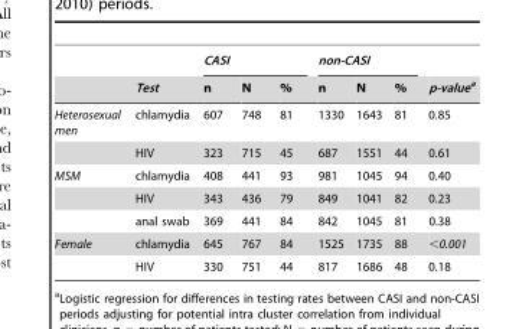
<table><thead><tr><td rowspan="2"></td><td rowspan="2">Test</td><td colspan="3">CASI</td><td colspan="3">non-CASI</td><td rowspan="2">p-valuea</td></tr><tr><td>n</td><td>N</td><td>%</td><td>n</td><td>N</td><td>%</td></tr></thead><tbody><tr><td rowspan="2">Heterosexual men</td><td>chlamydia</td><td>607</td><td>748</td><td>81</td><td>1330</td><td>1643</td><td>81</td><td>0.85</td></tr><tr><td>HIV</td><td>323</td><td>715</td><td>45</td><td>687</td><td>1551</td><td>44</td><td>0.61</td></tr><tr><td rowspan="3">MSM</td><td>chlamydia</td><td>408</td><td>441</td><td>93</td><td>981</td><td>1045</td><td>94</td><td>0.40</td></tr><tr><td>HIV</td><td>343</td><td>436</td><td>79</td><td>849</td><td>1041</td><td>82</td><td>0.23</td></tr><tr><td>anal swab</td><td>369</td><td>441</td><td>84</td><td>842</td><td>1045</td><td>81</td><td>0.38</td></tr><tr><td rowspan="2">Female</td><td>chlamydia</td><td>645</td><td>767</td><td>84</td><td>1525</td><td>1735</td><td>88</td><td>&lt;0.001</td></tr><tr><td>HIV</td><td>330</td><td>751</td><td>44</td><td>817</td><td>1686</td><td>48</td><td>0.18</td></tr></tbody></table>